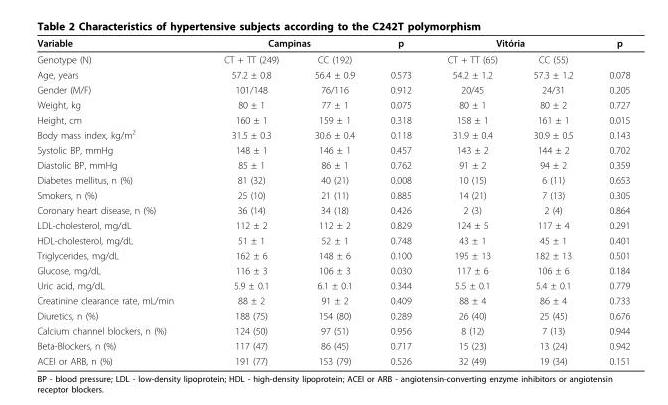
<table><thead><tr><td rowspan="2">Variable Genotype (N)</td><td colspan="2">Campinas</td><td rowspan="2">p</td><td colspan="2">Vitória</td><td rowspan="2">p</td></tr><tr><td>CT + TT (249)</td><td>CC (192)</td><td>CT + TT (65)</td><td>CC (55)</td></tr></thead><tbody><tr><td>Age, years</td><td>57.2 ± 0.8</td><td>56.4 ± 0.9</td><td>0.573</td><td>54.2 ± 1.2</td><td>57.3 ± 1.2</td><td>0.078</td></tr><tr><td>Gender (M/F)</td><td>101/148</td><td>76/116</td><td>0.912</td><td>20/45</td><td>24/31</td><td>0.205</td></tr><tr><td>Weight, kg</td><td>80 ± 1</td><td>77 ± 1</td><td>0.075</td><td>80 ± 1</td><td>80 ± 2</td><td>0.727</td></tr><tr><td>Height, cm</td><td>160 ± 1</td><td>159 ± 1</td><td>0.318</td><td>158 ± 1</td><td>161 ± 1</td><td>0.015</td></tr><tr><td>Body mass index, kg/m<sup>2</sup></td><td>31.5 ± 0.3</td><td>30.6 ± 0.4</td><td>0.118</td><td>31.9 ± 0.4</td><td>30.9 ± 0.5</td><td>0.143</td></tr><tr><td>Systolic BP, mmHg</td><td>148 ± 1</td><td>146 ± 1</td><td>0.457</td><td>143 ± 2</td><td>144 ± 2</td><td>0.702</td></tr><tr><td>Diastolic BP, mmHg</td><td>85 ± 1</td><td>86 ± 1</td><td>0.762</td><td>91 ± 2</td><td>94 ± 2</td><td>0.359</td></tr><tr><td>Diabetes mellitus, n (%)</td><td>81 (32)</td><td>40 (21)</td><td>0.008</td><td>10 (15)</td><td>6 (11)</td><td>0.653</td></tr><tr><td>Smokers, n (%)</td><td>25 (10)</td><td>21 (11)</td><td>0.885</td><td>14 (21)</td><td>7 (13)</td><td>0.305</td></tr><tr><td>Coronary heart disease, n (%)</td><td>36 (14)</td><td>34 (18)</td><td>0.426</td><td>2 (3)</td><td>2 (4)</td><td>0.864</td></tr><tr><td>LDL-cholesterol, mg/dL</td><td>112 ± 2</td><td>112 ± 2</td><td>0.829</td><td>124 ± 5</td><td>117 ± 4</td><td>0.291</td></tr><tr><td>HDL-cholesterol, mg/dL</td><td>51 ± 1</td><td>52 ± 1</td><td>0.748</td><td>43 ± 1</td><td>45 ± 1</td><td>0.401</td></tr><tr><td>Triglycerides, mg/dL</td><td>162 ± 6</td><td>148 ± 6</td><td>0.100</td><td>195 ± 13</td><td>182 ± 13</td><td>0.501</td></tr><tr><td>Glucose, mg/dL</td><td>116 ± 3</td><td>106 ± 3</td><td>0.030</td><td>117 ± 6</td><td>106 ± 6</td><td>0.184</td></tr><tr><td>Uric acid, mg/dL</td><td>5.9 ± 0.1</td><td>6.1 ± 0.1</td><td>0.344</td><td>5.5 ± 0.1</td><td>5.4 ± 0.1</td><td>0.779</td></tr><tr><td>Creatinine clearance rate, mL/min</td><td>88 ± 2</td><td>91 ± 2</td><td>0.409</td><td>88 ± 4</td><td>86 ± 4</td><td>0.733</td></tr><tr><td>Diuretics, n (%)</td><td>188 (75)</td><td>154 (80)</td><td>0.289</td><td>26 (40)</td><td>25 (45)</td><td>0.676</td></tr><tr><td>Calcium channel blockers, n (%)</td><td>124 (50)</td><td>97 (51)</td><td>0.956</td><td>8 (12)</td><td>7 (13)</td><td>0.944</td></tr><tr><td>Beta-Blockers, n (%)</td><td>117 (47)</td><td>86 (45)</td><td>0.717</td><td>15 (23)</td><td>13 (24)</td><td>0.942</td></tr><tr><td>ACEI or ARB, n (%)</td><td>191 (77)</td><td>153 (79)</td><td>0.526</td><td>32 (49)</td><td>19 (34)</td><td>0.151</td></tr></tbody></table>